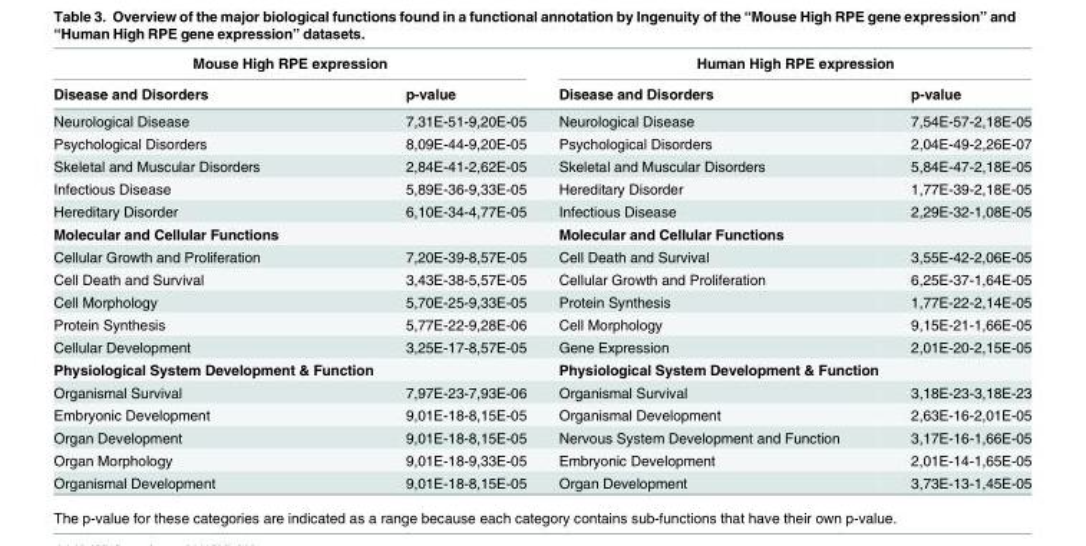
<table><thead><tr><td colspan="2">Mouse High RPE expression</td><td colspan="2">Human High RPE expression</td></tr><tr><td>Disease and Disorders</td><td>p-value</td><td>Disease and Disorders</td><td>p-value</td></tr></thead><tbody><tr><td>Neurological Disease</td><td>7,31E-51-9,20E-05</td><td>Neurological Disease</td><td>7,54E-57-2,18E-05</td></tr><tr><td>Psychological Disorders</td><td>8,09E-44-9,20E-05</td><td>Psychological Disorders</td><td>2,04E-49-2,26E-07</td></tr><tr><td>Skeletal and Muscular Disorders</td><td>2,84E-41-2,62E-05</td><td>Skeletal and Muscular Disorders</td><td>5,84E-47-2,18E-05</td></tr><tr><td>Infectious Disease</td><td>5,89E-36-9,33E-05</td><td>Hereditary Disorder</td><td>1,77E-39-2,18E-05</td></tr><tr><td>Hereditary Disorder</td><td>6,10E-34-4,77E-05</td><td>Infectious Disease</td><td>2,29E-32-1,08E-05</td></tr><tr><td>Molecular and Cellular Functions</td><td></td><td>Molecular and Cellular Functions</td><td></td></tr><tr><td>Cellular Growth and Proliferation</td><td>7,20E-39-8,57E-05</td><td>Cell Death and Survival</td><td>3,55E-42-2,06E-05</td></tr><tr><td>Cell Death and Survival</td><td>3,43E-38-5,57E-05</td><td>Cellular Growth and Proliferation</td><td>6,25E-37-1,64E-05</td></tr><tr><td>Cell Morphology</td><td>5,70E-25-9,33E-05</td><td>Protein Synthesis</td><td>1,77E-22-2,14E-05</td></tr><tr><td>Protein Synthesis</td><td>5,77E-22-9,28E-06</td><td>Cell Morphology</td><td>9,15E-21-1,66E-05</td></tr><tr><td>Cellular Development</td><td>3,25E-17-8,57E-05</td><td>Gene Expression</td><td>2,01E-20-2,15E-05</td></tr><tr><td>Physiological System Development &amp; Function</td><td></td><td>Physiological System Development &amp; Function</td><td></td></tr><tr><td>Organismal Survival</td><td>7,97E-23-7,93E-06</td><td>Organismal Survival</td><td>3,18E-23-3,18E-23</td></tr><tr><td>Embryonic Development</td><td>9,01E-18-8,15E-05</td><td>Organismal Development</td><td>2,63E-16-2,01E-05</td></tr><tr><td>Organ Development</td><td>9,01E-18-8,15E-05</td><td>Nervous System Development and Function</td><td>3,17E-16-1,66E-05</td></tr><tr><td>Organ Morphology</td><td>9,01E-18-9,33E-05</td><td>Embryonic Development</td><td>2,01E-14-1,65E-05</td></tr><tr><td>Organismal Development</td><td>9,01E-18-8,15E-05</td><td>Organ Development</td><td>3,73E-13-1,45E-05</td></tr></tbody></table>